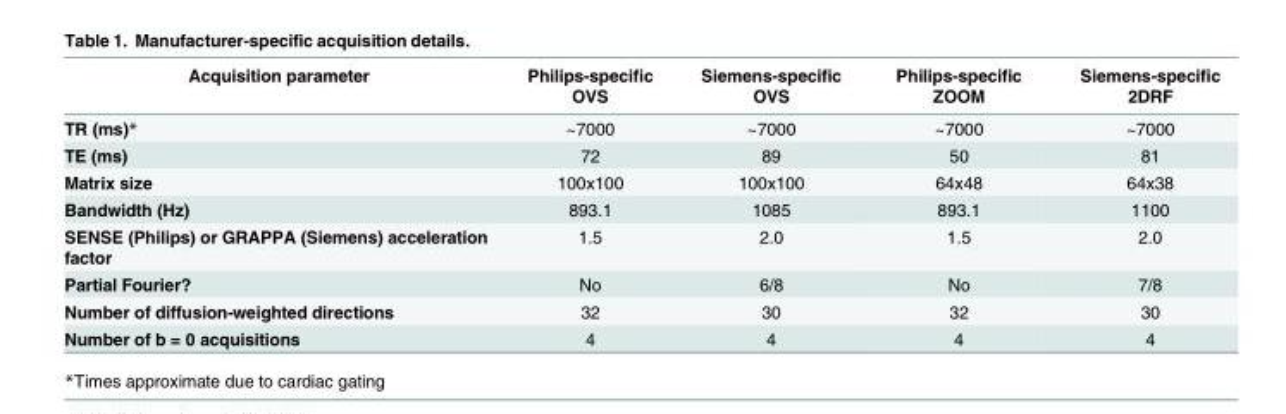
<table><thead><tr><td>Acquisition parameter</td><td>Philips-specific OVS</td><td>Siemens-specific OVS</td><td>Philips-specific ZOOM</td><td>Siemens-specific 2DRF</td></tr></thead><tbody><tr><td>TR (ms)*</td><td>~7000</td><td>~7000</td><td>~7000</td><td>~7000</td></tr><tr><td>TE (ms)</td><td>72</td><td>89</td><td>50</td><td>81</td></tr><tr><td>Matrix size</td><td>100x100</td><td>100x100</td><td>64x48</td><td>64x38</td></tr><tr><td>Bandwidth (Hz)</td><td>893.1</td><td>1085</td><td>893.1</td><td>1100</td></tr><tr><td>SENSE (Philips) or GRAPPA (Siemens) acceleration factor</td><td>1.5</td><td>2.0</td><td>1.5</td><td>2.0</td></tr><tr><td>Partial Fourier?</td><td>No</td><td>6/8</td><td>No</td><td>7/8</td></tr><tr><td>Number of diffusion-weighted directions</td><td>32</td><td>30</td><td>32</td><td>30</td></tr><tr><td>Number of b = 0 acquisitions</td><td>4</td><td>4</td><td>4</td><td>4</td></tr></tbody></table>